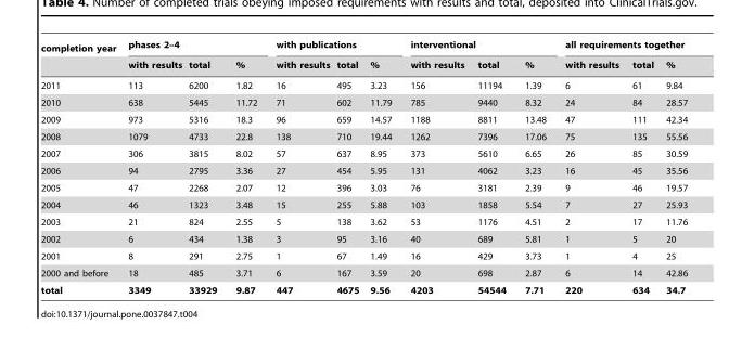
<table><thead><tr><td rowspan="2">completion year</td><td colspan="3">phases 2–4</td><td colspan="3">with publications</td><td colspan="3">interventional</td><td colspan="3">all requirements together</td></tr><tr><td>with results</td><td>total</td><td>%</td><td>with results</td><td>total</td><td>%</td><td>with results</td><td>total</td><td>%</td><td>with results</td><td>total</td><td>%</td></tr></thead><tbody><tr><td>2011</td><td>113</td><td>6200</td><td>1.82</td><td>16</td><td>495</td><td>3.23</td><td>156</td><td>11194</td><td>1.39</td><td>6</td><td>61</td><td>9.84</td></tr><tr><td>2010</td><td>638</td><td>5445</td><td>11.72</td><td>71</td><td>602</td><td>11.79</td><td>785</td><td>9440</td><td>8.32</td><td>24</td><td>84</td><td>28.57</td></tr><tr><td>2009</td><td>973</td><td>5316</td><td>18.3</td><td>96</td><td>659</td><td>14.57</td><td>1188</td><td>8811</td><td>13.48</td><td>47</td><td>111</td><td>42.34</td></tr><tr><td>2008</td><td>1079</td><td>4733</td><td>22.8</td><td>138</td><td>710</td><td>19.44</td><td>1262</td><td>7396</td><td>17.06</td><td>75</td><td>135</td><td>55.56</td></tr><tr><td>2007</td><td>306</td><td>3815</td><td>8.02</td><td>57</td><td>637</td><td>8.95</td><td>373</td><td>5610</td><td>6.65</td><td>26</td><td>85</td><td>30.59</td></tr><tr><td>2006</td><td>94</td><td>2795</td><td>3.36</td><td>27</td><td>454</td><td>5.95</td><td>131</td><td>4062</td><td>3.23</td><td>16</td><td>45</td><td>35.56</td></tr><tr><td>2005</td><td>47</td><td>2268</td><td>2.07</td><td>12</td><td>396</td><td>3.03</td><td>76</td><td>3181</td><td>2.39</td><td>9</td><td>46</td><td>19.57</td></tr><tr><td>2004</td><td>46</td><td>1323</td><td>3.48</td><td>15</td><td>255</td><td>5.88</td><td>103</td><td>1858</td><td>5.54</td><td>7</td><td>27</td><td>25.93</td></tr><tr><td>2003</td><td>21</td><td>824</td><td>2.55</td><td>5</td><td>138</td><td>3.62</td><td>53</td><td>1176</td><td>4.51</td><td>2</td><td>17</td><td>11.76</td></tr><tr><td>2002</td><td>6</td><td>434</td><td>1.38</td><td>3</td><td>95</td><td>3.16</td><td>40</td><td>689</td><td>5.81</td><td>1</td><td>5</td><td>20</td></tr><tr><td>2001</td><td>8</td><td>291</td><td>2.75</td><td>1</td><td>67</td><td>1.49</td><td>16</td><td>429</td><td>3.73</td><td>1</td><td>4</td><td>25</td></tr><tr><td>2000 and before</td><td>18</td><td>485</td><td>3.71</td><td>6</td><td>167</td><td>3.59</td><td>20</td><td>698</td><td>2.87</td><td>6</td><td>14</td><td>42.86</td></tr><tr><td>total</td><td>3349</td><td>33929</td><td>9.87</td><td>447</td><td>4675</td><td>9.56</td><td>4203</td><td>54544</td><td>7.71</td><td>220</td><td>634</td><td>34.7</td></tr></tbody></table>